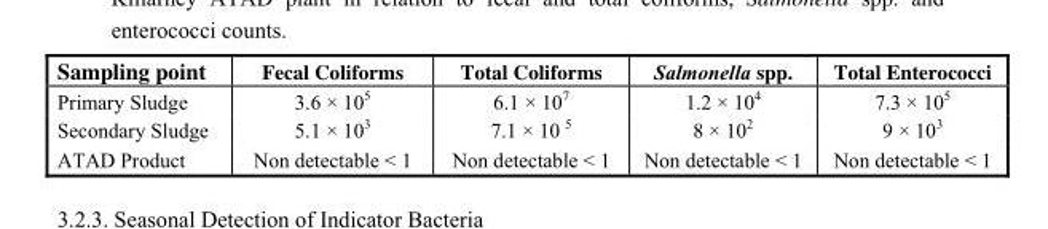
<table><thead><tr><td>Sampling point</td><td>Fecal Coliforms</td><td>Total Coliforms</td><td>Salmonella spp.</td><td>Total Enterococci</td></tr></thead><tbody><tr><td>Primary Sludge</td><td>3.6 × 10<sup>5</sup></td><td>6.1 × 10<sup>7</sup></td><td>1.2 × 10<sup>4</sup></td><td>7.3 × 10<sup>5</sup></td></tr><tr><td>Secondary Sludge</td><td>5.1 × 10<sup>3</sup></td><td>7.1 × 10 <sup>5</sup></td><td>8 × 10<sup>2</sup></td><td>9 × 10<sup>3</sup></td></tr><tr><td>ATAD Product</td><td>Non detectable &lt; 1</td><td>Non detectable &lt; 1</td><td>Non detectable &lt; 1</td><td>Non detectable &lt; 1</td></tr></tbody></table>